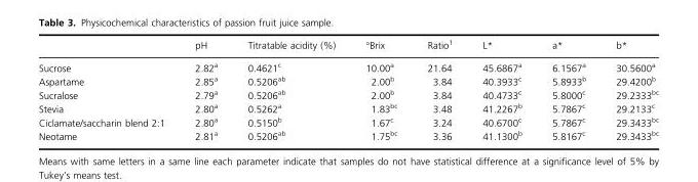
<table><thead><tr><td></td><td>pH</td><td>Titratable acidity (%)</td><td>°Brix</td><td>Ratio<sup>1</sup></td><td>L*</td><td>a*</td><td>b*</td></tr></thead><tbody><tr><td>Sucrose</td><td>2.82<sup>a</sup></td><td>0.4621<sup>c</sup></td><td>10.00<sup>a</sup></td><td>21.64</td><td>45.6867<sup>a</sup></td><td>6.1567<sup>a</sup></td><td>30.5600<sup>a</sup></td></tr><tr><td>Aspartame</td><td>2.85<sup>a</sup></td><td>0.5206<sup>ab</sup></td><td>2.00<sup>b</sup></td><td>3.84</td><td>40.3933<sup>c</sup></td><td>5.8933<sup>b</sup></td><td>29.4200<sup>b</sup></td></tr><tr><td>Sucralose</td><td>2.79<sup>a</sup></td><td>0.5206<sup>ab</sup></td><td>2.00<sup>b</sup></td><td>3.84</td><td>40.4733<sup>c</sup></td><td>5.8000<sup>c</sup></td><td>29.2333<sup>bc</sup></td></tr><tr><td>Stevia</td><td>2.80<sup>a</sup></td><td>0.5262<sup>a</sup></td><td>1.83<sup>bc</sup></td><td>3.48</td><td>41.2267<sup>b</sup></td><td>5.7867<sup>c</sup></td><td>29.2133<sup>c</sup></td></tr><tr><td>Ciclamate/saccharin blend 2:1</td><td>2.80<sup>a</sup></td><td>0.5150<sup>b</sup></td><td>1.67<sup>c</sup></td><td>3.24</td><td>40.6700<sup>c</sup></td><td>5.7867<sup>c</sup></td><td>29.3433<sup>bc</sup></td></tr><tr><td>Neotame</td><td>2.81<sup>a</sup></td><td>0.5206<sup>ab</sup></td><td>1.75<sup>bc</sup></td><td>3.36</td><td>41.1300<sup>b</sup></td><td>5.8167<sup>c</sup></td><td>29.3433<sup>bc</sup></td></tr></tbody></table>